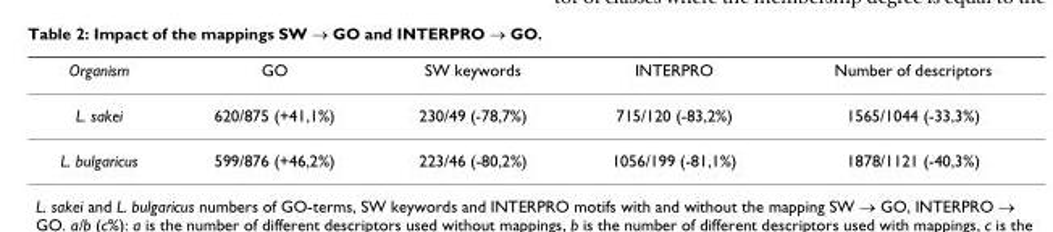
<table><thead><tr><td>Organism</td><td>GO</td><td>SW keywords</td><td>INTERPRO</td><td>Number of descriptors</td></tr></thead><tbody><tr><td>L. sakei</td><td>620/875 (+41,1%)</td><td>230/49 (-78,7%)</td><td>715/120 (-83,2%)</td><td>1565/1044 (-33,3%)</td></tr><tr><td>L. bulgaricus</td><td>599/876 (+46,2%)</td><td>223/46 (-80,2%)</td><td>1056/199 (-81,1%)</td><td>1878/1121 (-40,3%)</td></tr></tbody></table>